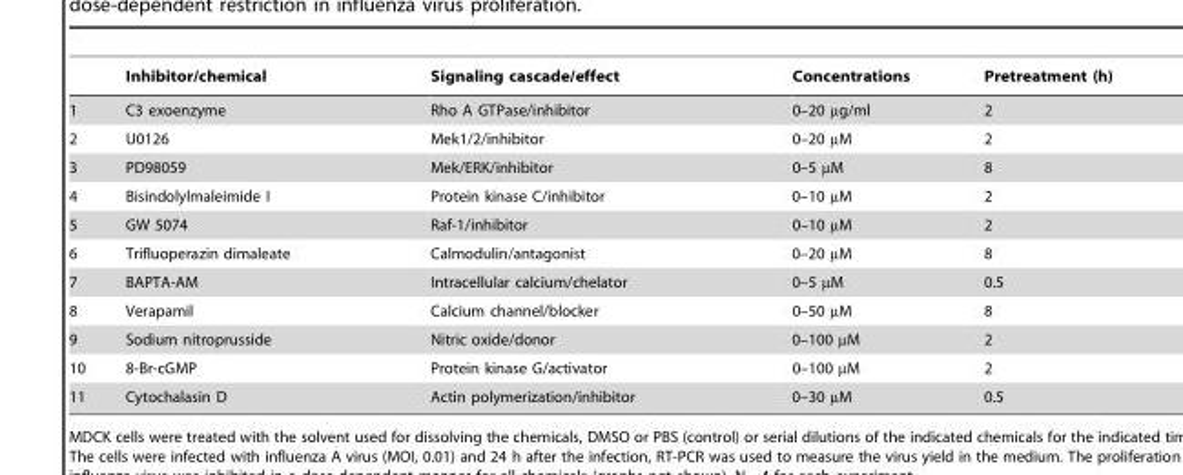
<table><thead><tr><td></td><td>Inhibitor/chemical</td><td>Signaling cascade/effect</td><td>Concentrations</td><td>Pretreatment (h)</td></tr></thead><tbody><tr><td>1</td><td>C3 exoenzyme</td><td>Rho A GTPase/inhibitor</td><td>0–20 µg/ml</td><td>2</td></tr><tr><td>2</td><td>U0126</td><td>Mek1/2/inhibitor</td><td>0–20 µM</td><td>2</td></tr><tr><td>3</td><td>PD98059</td><td>Mek/ERK/inhibitor</td><td>0–5 µM</td><td>8</td></tr><tr><td>4</td><td>Bisindolylmaleimide I</td><td>Protein kinase C/inhibitor</td><td>0–10 µM</td><td>2</td></tr><tr><td>5</td><td>GW 5074</td><td>Raf-1/inhibitor</td><td>0–10 µM</td><td>2</td></tr><tr><td>6</td><td>Trifluoperazin dimaleate</td><td>Calmodulin/antagonist</td><td>0–20 µM</td><td>8</td></tr><tr><td>7</td><td>BAPTA-AM</td><td>Intracellular calcium/chelator</td><td>0–5 µM</td><td>0.5</td></tr><tr><td>8</td><td>Verapamil</td><td>Calcium channel/blocker</td><td>0–50 µM</td><td>8</td></tr><tr><td>9</td><td>Sodium nitroprusside</td><td>Nitric oxide/donor</td><td>0–100 µM</td><td>2</td></tr><tr><td>10</td><td>8-Br-cGMP</td><td>Protein kinase G/activator</td><td>0–100 µM</td><td>2</td></tr><tr><td>11</td><td>Cytochalasin D</td><td>Actin polymerization/inhibitor</td><td>0–30 µM</td><td>0.5</td></tr></tbody></table>